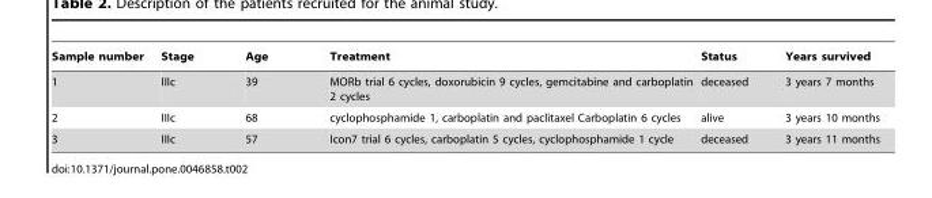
<table><thead><tr><td>Sample number</td><td>Stage</td><td>Age</td><td>Treatment</td><td>Status</td><td>Years survived</td></tr></thead><tbody><tr><td>1</td><td>IIIc</td><td>39</td><td>MORb trial 6 cycles, doxorubicin 9 cycles, gemcitabine and carboplatin 2 cycles</td><td>deceased</td><td>3 years 7 months</td></tr><tr><td>2</td><td>IIIc</td><td>68</td><td>cyclophosphamide 1, carboplatin and paclitaxel Carboplatin 6 cycles</td><td>alive</td><td>3 years 10 months</td></tr><tr><td>3</td><td>IIIc</td><td>57</td><td>Icon7 trial 6 cycles, carboplatin 5 cycles, cyclophosphamide 1 cycle</td><td>deceased</td><td>3 years 11 months</td></tr></tbody></table>